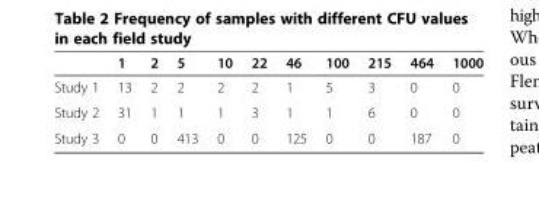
<table><thead><tr><td></td><td>1</td><td>2</td><td>5</td><td>10</td><td>22</td><td>46</td><td>100</td><td>215</td><td>464</td><td>1000</td></tr></thead><tbody><tr><td>Study 1</td><td>13</td><td>2</td><td>2</td><td>2</td><td>2</td><td>1</td><td>5</td><td>3</td><td>0</td><td>0</td></tr><tr><td>Study 2</td><td>31</td><td>1</td><td>1</td><td>1</td><td>3</td><td>1</td><td>1</td><td>6</td><td>0</td><td>0</td></tr><tr><td>Study 3</td><td>0</td><td>0</td><td>413</td><td>0</td><td>0</td><td>125</td><td>0</td><td>0</td><td>187</td><td>0</td></tr></tbody></table>